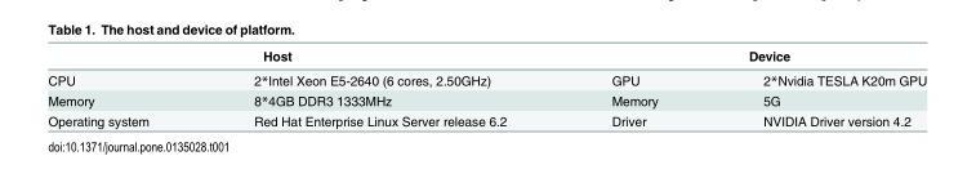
<table><thead><tr><td colspan="2">Host</td><td colspan="2">Device</td></tr><tr><td>CPU</td><td>2*Intel Xeon E5-2640 (6 cores, 2.50GHz)</td><td>GPU</td><td>2*Nvidia TESLA K20m GPU</td></tr></thead><tbody><tr><td>Memory</td><td>8*4GB DDR3 1333MHz</td><td>Memory</td><td>5G</td></tr><tr><td>Operating system</td><td>Red Hat Enterprise Linux Server release 6.2</td><td>Driver</td><td>NVIDIA Driver version 4.2</td></tr></tbody></table>